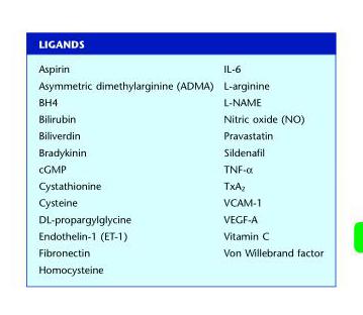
<table><thead><tr><td>LIGANDS</td><td></td></tr></thead><tbody><tr><td>Aspirin</td><td>IL-6</td></tr><tr><td>Asymmetric dimethylarginine (ADMA)</td><td>L-arginine</td></tr><tr><td>BH4</td><td>L-NAME</td></tr><tr><td>Bilirubin</td><td>Nitric oxide (NO)</td></tr><tr><td>Biliverdin</td><td>Pravastatin</td></tr><tr><td>Bradykinin</td><td>Sildenafil</td></tr><tr><td>cGMP</td><td>TNF-α</td></tr><tr><td>Cystathionine</td><td>TxA2</td></tr><tr><td>Cysteine</td><td>VCAM-1</td></tr><tr><td>DL-propargylglycine</td><td>VEGF-A</td></tr><tr><td>Endothelin-1 (ET-1)</td><td>Vitamin C</td></tr><tr><td>Fibronectin</td><td>Von Willebrand factor</td></tr><tr><td>Homocysteine</td><td></td></tr></tbody></table>